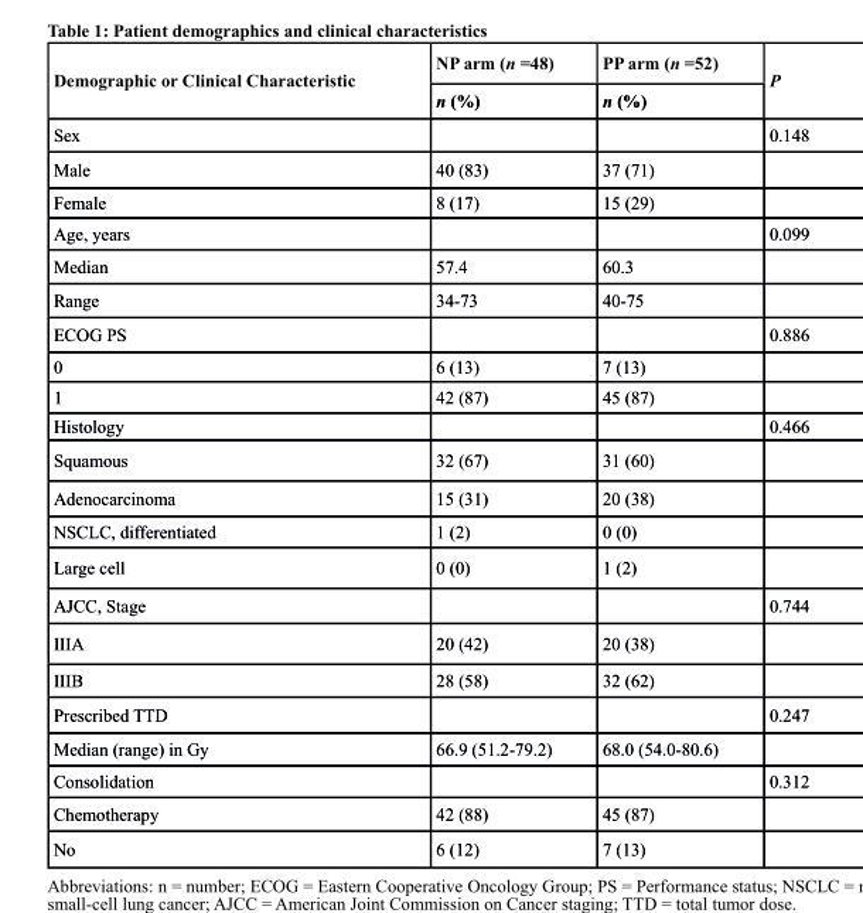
<table><thead><tr><td rowspan="2">Demographic or clinical characteristic</td><td rowspan="2">NP arm (n =48) n (%)</td><td rowspan="2">PP arm (n =52) n (%)</td><td rowspan="2">P</td></tr><tr></tr></thead><tbody><tr><td>Sex</td><td></td><td></td><td>0.148</td></tr><tr><td>Male</td><td>40 (83)</td><td>37 (71)</td><td></td></tr><tr><td>Female</td><td>8 (17)</td><td>15 (29)</td><td></td></tr><tr><td>Age, years</td><td></td><td></td><td>0.099</td></tr><tr><td>Median</td><td>57.4</td><td>60.3</td><td></td></tr><tr><td>Range</td><td>34-73</td><td>40-75</td><td></td></tr><tr><td>ECOG PS</td><td></td><td></td><td>0.886</td></tr><tr><td>0</td><td>6 (13)</td><td>7 (13)</td><td></td></tr><tr><td>1</td><td>42 (87)</td><td>45 (87)</td><td></td></tr><tr><td>Histology</td><td></td><td></td><td>0.466</td></tr><tr><td>Squamous</td><td>32 (67)</td><td>31 (60)</td><td></td></tr><tr><td>Adenocarcinoma</td><td>15 (31)</td><td>20 (38)</td><td></td></tr><tr><td>NSCLC, differentiated</td><td>1 (2)</td><td>0 (0)</td><td></td></tr><tr><td>Large cell</td><td>0 (0)</td><td>1 (2)</td><td></td></tr><tr><td>AJCC, Stage</td><td></td><td></td><td>0.744</td></tr><tr><td>IIIA</td><td>20 (42)</td><td>20 (38)</td><td></td></tr><tr><td>IIIB</td><td>28 (58)</td><td>32 (62)</td><td></td></tr><tr><td>Prescribed TTD</td><td></td><td></td><td>0.247</td></tr><tr><td>Median (range) in Gy</td><td>66.9 (51.2-79.2)</td><td>68.0 (54.0-80.6)</td><td></td></tr><tr><td>Consolidation</td><td></td><td></td><td>0.312</td></tr><tr><td>Chemotherapy</td><td>42 (88)</td><td>45 (87)</td><td></td></tr><tr><td>No</td><td>6 (12)</td><td>7 (13)</td><td></td></tr></tbody></table>